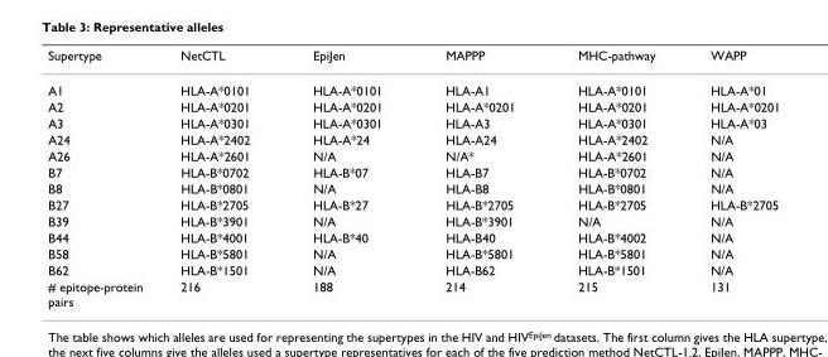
<table><thead><tr><td>Supertype</td><td>NetCTL</td><td>EpiJen</td><td>MAPPP</td><td>MHC-pathway</td><td>WAPP</td></tr></thead><tbody><tr><td>A1</td><td>HLA-A*0101</td><td>HLA-A*0101</td><td>HLA-A1</td><td>HLA-A*0101</td><td>HLA-A*01</td></tr><tr><td>A2</td><td>HLA-A*0201</td><td>HLA-A*0201</td><td>HLA-A*0201</td><td>HLA-A*0201</td><td>HLA-A*0201</td></tr><tr><td>A3</td><td>HLA-A*0301</td><td>HLA-A*0301</td><td>HLA-A3</td><td>HLA-A*0301</td><td>HLA-A*03</td></tr><tr><td>A24</td><td>HLA-A*2402</td><td>HLA-A*24</td><td>HLA-A24</td><td>HLA-A*2402</td><td>N/A</td></tr><tr><td>A26</td><td>HLA-A*2601</td><td>N/A</td><td>N/A*</td><td>HLA-A*2601</td><td>N/A</td></tr><tr><td>B7</td><td>HLA-B*0702</td><td>HLA-B*07</td><td>HLA-B7</td><td>HLA-B*0702</td><td>N/A</td></tr><tr><td>B8</td><td>HLA-B*0801</td><td>N/A</td><td>HLA-B8</td><td>HLA-B*0801</td><td>N/A</td></tr><tr><td>B27</td><td>HLA-B*2705</td><td>HLA-B*27</td><td>HLA-B*2705</td><td>HLA-B*2705</td><td>HLA-B*2705</td></tr><tr><td>B39</td><td>HLA-B*3901</td><td>N/A</td><td>HLA-B*3901</td><td>N/A</td><td>N/A</td></tr><tr><td>B44</td><td>HLA-B*4001</td><td>HLA-B*40</td><td>HLA-B40</td><td>HLA-B*4002</td><td>N/A</td></tr><tr><td>B58</td><td>HLA-B*5801</td><td>N/A</td><td>HLA-B*5801</td><td>HLA-B*5801</td><td>N/A</td></tr><tr><td>B62</td><td>HLA-B*1501</td><td>N/A</td><td>HLA-B62</td><td>HLA-B*1501</td><td>N/A</td></tr><tr><td># epitope-protein pairs</td><td>216</td><td>188</td><td>214</td><td>215</td><td>131</td></tr></tbody></table>